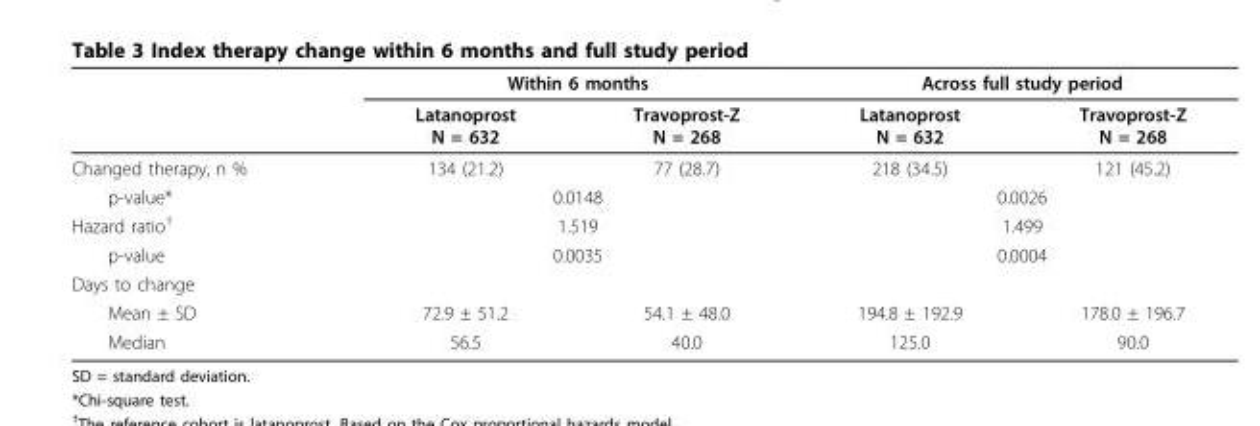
<table><thead><tr><td rowspan="2"></td><td colspan="2">Within 6 months</td><td colspan="2">Across full study period</td></tr><tr><td>Latanoprost N = 632</td><td>Travoprost-Z N = 268</td><td>Latanoprost N = 632</td><td>Travoprost-Z N = 268</td></tr></thead><tbody><tr><td>Changed therapy, n %</td><td>134 (21.2)</td><td>77 (28.7)</td><td>218 (34.5)</td><td>121 (45.2)</td></tr><tr><td>p-value*</td><td colspan="2">0.0148</td><td colspan="2">0.0026</td></tr><tr><td>Hazard ratio<sup>†</sup></td><td colspan="2">1.519</td><td colspan="2">1.499</td></tr><tr><td>p-value</td><td colspan="2">0.0035</td><td colspan="2">0.0004</td></tr><tr><td colspan="5">Days to change</td></tr><tr><td>Mean ± SD</td><td>72.9 ± 51.2</td><td>54.1 ± 48.0</td><td>194.8 ± 192.9</td><td>178.0 ± 196.7</td></tr><tr><td>Median</td><td>56.5</td><td>40.0</td><td>125.0</td><td>90.0</td></tr></tbody></table>